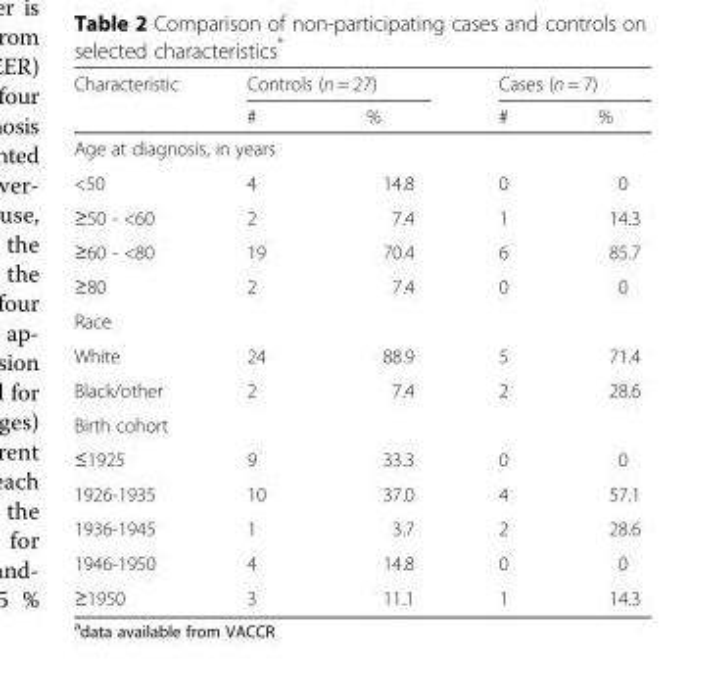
<table><thead><tr><td rowspan="2">Characteristic</td><td colspan="2">Controls (n = 27)</td><td colspan="2">Cases (n = 7)</td></tr><tr><td>#</td><td>%</td><td>#</td><td>%</td></tr></thead><tbody><tr><td colspan="5">Age at diagnosis, in years</td></tr><tr><td>&lt;50</td><td>4</td><td>14.8</td><td>0</td><td>0</td></tr><tr><td>≥50 - &lt;60</td><td>2</td><td>7.4</td><td>1</td><td>14.3</td></tr><tr><td>≥60 - &lt;80</td><td>19</td><td>70.4</td><td>6</td><td>85.7</td></tr><tr><td>≥80</td><td>2</td><td>7.4</td><td>0</td><td>0</td></tr><tr><td colspan="5">Race</td></tr><tr><td>White</td><td>24</td><td>88.9</td><td>5</td><td>71.4</td></tr><tr><td>Black/other</td><td>2</td><td>7.4</td><td>2</td><td>28.6</td></tr><tr><td colspan="5">Birth cohort</td></tr><tr><td>≤1925</td><td>9</td><td>33.3</td><td>0</td><td>0</td></tr><tr><td>1926-1935</td><td>10</td><td>37.0</td><td>4</td><td>57.1</td></tr><tr><td>1936-1945</td><td>1</td><td>3.7</td><td>2</td><td>28.6</td></tr><tr><td>1946-1950</td><td>4</td><td>14.8</td><td>0</td><td>0</td></tr><tr><td>≥1950</td><td>3</td><td>11.1</td><td>1</td><td>14.3</td></tr></tbody></table>